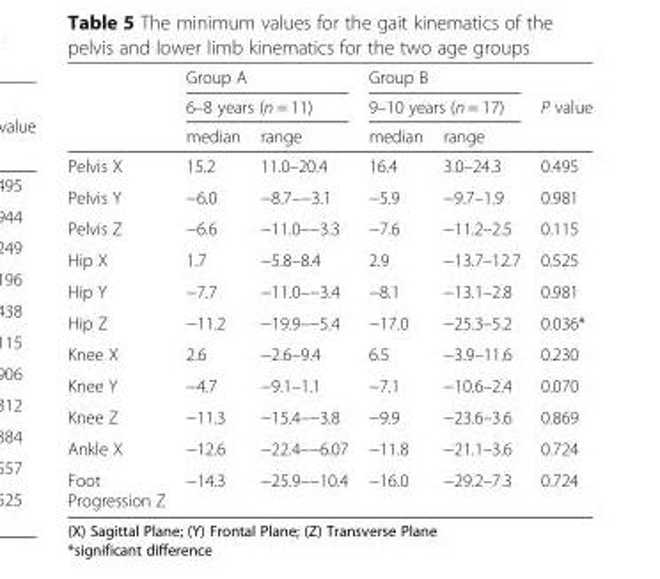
<table><thead><tr><td rowspan="3"></td><td rowspan="2" colspan="2">Group A 6–8 years (n = 11)</td><td rowspan="2" colspan="2">Group B 9–10 years (n = 17)</td><td rowspan="3">P value</td></tr><tr></tr><tr><td>median</td><td>range</td><td>median</td><td>range</td></tr></thead><tbody><tr><td>Pelvis X</td><td>15.2</td><td>11.0–20.4</td><td>16.4</td><td>3.0–24.3</td><td>0.495</td></tr><tr><td>Pelvis Y</td><td>−6.0</td><td>−8.7–−3.1</td><td>−5.9</td><td>−9.7–1.9</td><td>0.981</td></tr><tr><td>Pelvis Z</td><td>−6.6</td><td>−11.0–−3.3</td><td>−7.6</td><td>−11.2–2.5</td><td>0.115</td></tr><tr><td>Hip X</td><td>1.7</td><td>−5.8–8.4</td><td>2.9</td><td>−13.7–12.7</td><td>0.525</td></tr><tr><td>Hip Y</td><td>−7.7</td><td>−11.0–−3.4</td><td>−8.1</td><td>−13.1–2.8</td><td>0.981</td></tr><tr><td>Hip Z</td><td>−11.2</td><td>−19.9–−5.4</td><td>−17.0</td><td>−25.3–5.2</td><td>0.036*</td></tr><tr><td>Knee X</td><td>2.6</td><td>−2.6–9.4</td><td>6.5</td><td>−3.9–11.6</td><td>0.230</td></tr><tr><td>Knee Y</td><td>−4.7</td><td>−9.1–1.1</td><td>−7.1</td><td>−10.6–2.4</td><td>0.070</td></tr><tr><td>Knee Z</td><td>−11.3</td><td>−15.4–−3.8</td><td>−9.9</td><td>−23.6–3.6</td><td>0.869</td></tr><tr><td>Ankle X</td><td>−12.6</td><td>−22.4–−6.07</td><td>−11.8</td><td>−21.1–3.6</td><td>0.724</td></tr><tr><td>Foot Progression Z</td><td>−14.3</td><td>−25.9–−10.4</td><td>−16.0</td><td>−29.2–7.3</td><td>0.724</td></tr></tbody></table>